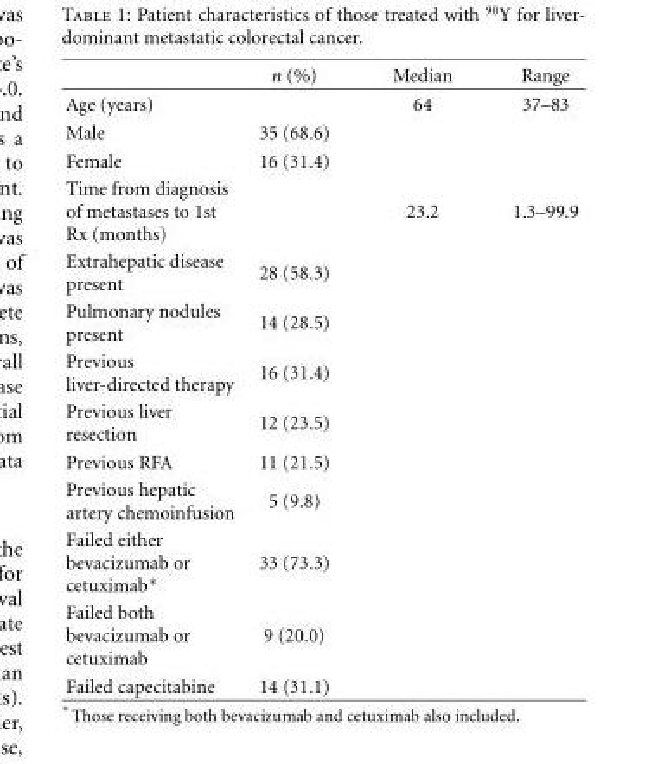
<table><thead><tr><td></td><td>n (%)</td><td>Median</td><td>Range</td></tr></thead><tbody><tr><td>Age (years)</td><td></td><td>64</td><td>37–83</td></tr><tr><td>Male</td><td>35 (68.6)</td><td></td><td></td></tr><tr><td>Female</td><td>16 (31.4)</td><td></td><td></td></tr><tr><td>Time from diagnosis of metastases to 1st Rx (months)</td><td></td><td>23.2</td><td>1.3–99.9</td></tr><tr><td>Extrahepatic disease present</td><td>28 (58.3)</td><td></td><td></td></tr><tr><td>Pulmonary nodules present</td><td>14 (28.5)</td><td></td><td></td></tr><tr><td>Previous liver-directed therapy</td><td>16 (31.4)</td><td></td><td></td></tr><tr><td>Previous liver resection</td><td>12 (23.5)</td><td></td><td></td></tr><tr><td>Previous RFA</td><td>11 (21.5)</td><td></td><td></td></tr><tr><td>Previous hepatic artery chemoinfusion</td><td>5 (9.8)</td><td></td><td></td></tr><tr><td>Failed either bevacizumab or cetuximab∗</td><td>33 (73.3)</td><td></td><td></td></tr><tr><td>Failed both bevacizumab or cetuximab</td><td>9 (20.0)</td><td></td><td></td></tr><tr><td>Failed capecitabine</td><td>14 (31.1)</td><td></td><td></td></tr></tbody></table>